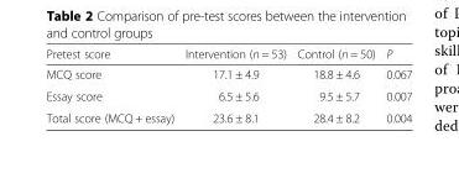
<table><thead><tr><td>Pretest score</td><td>Intervention (n = 53)</td><td>Control (n = 50)</td><td>P</td></tr></thead><tbody><tr><td>MCQ score</td><td>17.1 ± 4.9</td><td>18.8 ± 4.6</td><td>0.067</td></tr><tr><td>Essay score</td><td>6.5 ± 5.6</td><td>9.5 ± 5.7</td><td>0.007</td></tr><tr><td>Total score (MCQ + essay)</td><td>23.6 ± 8.1</td><td>28.4 ± 8.2</td><td>0.004</td></tr></tbody></table>